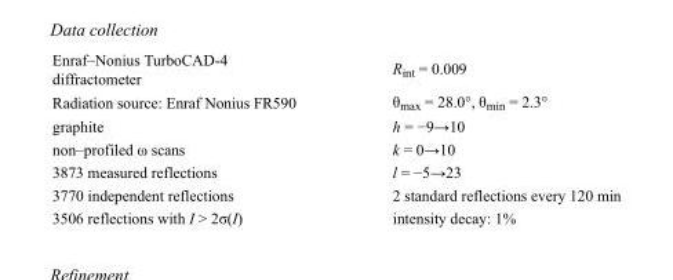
<table><tbody><tr><td>Enraf–Nonius TurboCAD-4 diffractometer</td><td>R<sub>int</sub> = 0.009</td></tr><tr><td>Radiation source: Enraf Nonius FR590</td><td>θ<sub>max</sub> = 28.0°, θ<sub>min</sub> = 2.3°</td></tr><tr><td>graphite</td><td>h = −9→10</td></tr><tr><td>non–profiled ω scans</td><td>k = 0→10</td></tr><tr><td>3873 measured reflections</td><td>l = −5→23</td></tr><tr><td>3770 independent reflections</td><td>2 standard reflections every 120 min</td></tr><tr><td>3506 reflections with I &gt; 2σ(I)</td><td>intensity decay: 1%</td></tr></tbody></table>